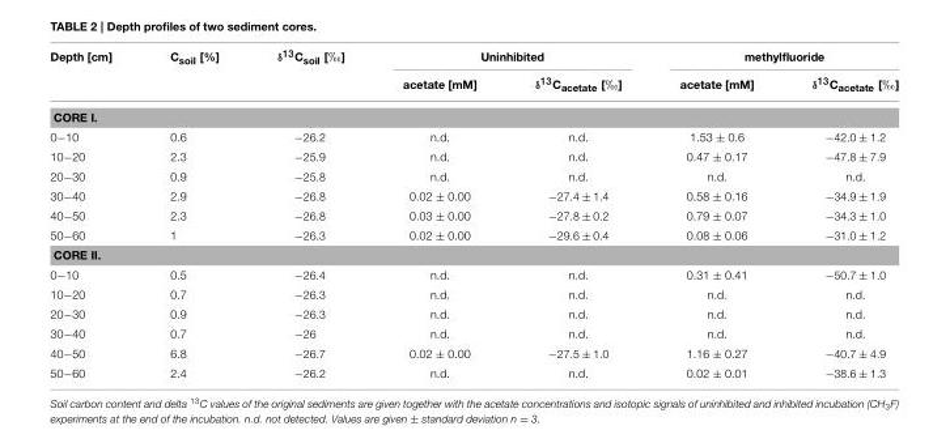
<table><thead><tr><td rowspan="2">Depth [cm]</td><td rowspan="2">C<sub>soil</sub> [%]</td><td rowspan="2">δ<sup>13</sup>C<sub>soil</sub> [‰]</td><td colspan="2">Uninhibited</td><td colspan="2">methylfluoride</td></tr><tr><td>acetate [mM]</td><td>δ<sup>13</sup>C<sub>acetate</sub> [‰]</td><td>acetate [mM]</td><td>δ<sup>13</sup>C<sub>acetate</sub> [‰]</td></tr></thead><tbody><tr><td colspan="7">CORE I.</td></tr><tr><td>0−10</td><td>0.6</td><td>−26.2</td><td>n.d.</td><td>n.d.</td><td>1.53 ± 0.6</td><td>−42.0 ± 1.2</td></tr><tr><td>10−20</td><td>2.3</td><td>−25.9</td><td>n.d.</td><td>n.d.</td><td>0.47 ± 0.17</td><td>−47.8 ± 7.9</td></tr><tr><td>20−30</td><td>0.9</td><td>−25.8</td><td>n.d.</td><td>n.d.</td><td>n.d.</td><td>n.d.</td></tr><tr><td>30−40</td><td>2.9</td><td>−26.8</td><td>0.02 ± 0.00</td><td>−27.4 ± 1.4</td><td>0.58 ± 0.16</td><td>−34.9 ± 1.9</td></tr><tr><td>40−50</td><td>2.3</td><td>−26.8</td><td>0.03 ± 0.00</td><td>−27.8 ± 0.2</td><td>0.79 ± 0.07</td><td>−34.3 ± 1.0</td></tr><tr><td>50−60</td><td>1</td><td>−26.3</td><td>0.02 ± 0.00</td><td>−29.6 ± 0.4</td><td>0.08 ± 0.06</td><td>−31.0 ± 1.2</td></tr><tr><td colspan="7">CORE II.</td></tr><tr><td>0−10</td><td>0.5</td><td>−26.4</td><td>n.d.</td><td>n.d.</td><td>0.31 ± 0.41</td><td>−50.7 ± 1.0</td></tr><tr><td>10−20</td><td>0.7</td><td>−26.3</td><td>n.d.</td><td>n.d.</td><td>n.d.</td><td>n.d.</td></tr><tr><td>20−30</td><td>0.9</td><td>−26.3</td><td>n.d.</td><td>n.d.</td><td>n.d.</td><td>n.d.</td></tr><tr><td>30−40</td><td>0.7</td><td>−26</td><td>n.d.</td><td>n.d.</td><td>n.d.</td><td>n.d.</td></tr><tr><td>40−50</td><td>6.8</td><td>−26.7</td><td>0.02 ± 0.00</td><td>−27.5 ± 1.0</td><td>1.16 ± 0.27</td><td>−40.7 ± 4.9</td></tr><tr><td>50−60</td><td>2.4</td><td>−26.2</td><td>n.d.</td><td>n.d.</td><td>0.02 ± 0.01</td><td>−38.6 ± 1.3</td></tr></tbody></table>